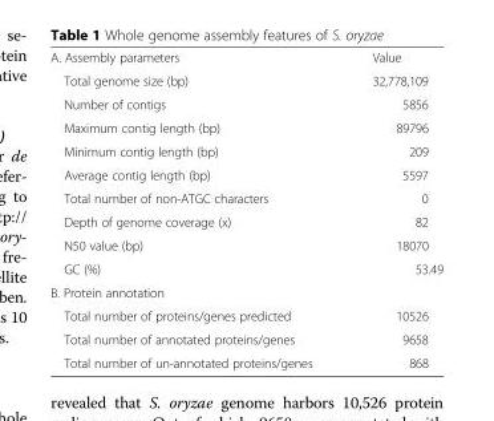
<table><tbody><tr><td>A. Assembly parameters</td><td>Value</td></tr><tr><td>Total genome size (bp)</td><td>32,778,109</td></tr><tr><td>Number of contigs</td><td>5856</td></tr><tr><td>Maximum contig length (bp)</td><td>89796</td></tr><tr><td>Minimum contig length (bp)</td><td>209</td></tr><tr><td>Average contig length (bp)</td><td>5597</td></tr><tr><td>Total number of non-ATGC characters</td><td>0</td></tr><tr><td>Depth of genome coverage (x)</td><td>82</td></tr><tr><td>N50 value (bp)</td><td>18070</td></tr><tr><td>GC (%)</td><td>53.49</td></tr><tr><td colspan="2">B. Protein annotation</td></tr><tr><td>Total number of proteins/genes predicted</td><td>10526</td></tr><tr><td>Total number of annotated proteins/genes</td><td>9658</td></tr><tr><td>Total number of un-annotated proteins/genes</td><td>868</td></tr></tbody></table>